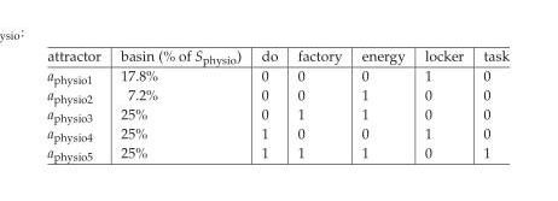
<table><thead><tr><td>attractor</td><td>basin (% of S<sub>physio</sub>)</td><td>do</td><td>factory</td><td>energy</td><td>locker</td><td>task</td></tr></thead><tbody><tr><td>a<sub>physio1</sub></td><td>17.8%</td><td>0</td><td>0</td><td>0</td><td>1</td><td>0</td></tr><tr><td>a<sub>physio2</sub></td><td>7.2%</td><td>0</td><td>0</td><td>1</td><td>0</td><td>0</td></tr><tr><td>a<sub>physio3</sub></td><td>25%</td><td>0</td><td>1</td><td>1</td><td>0</td><td>0</td></tr><tr><td>a<sub>physio4</sub></td><td>25%</td><td>1</td><td>0</td><td>0</td><td>1</td><td>0</td></tr><tr><td>a<sub>physio5</sub></td><td>25%</td><td>1</td><td>1</td><td>1</td><td>0</td><td>1</td></tr></tbody></table>